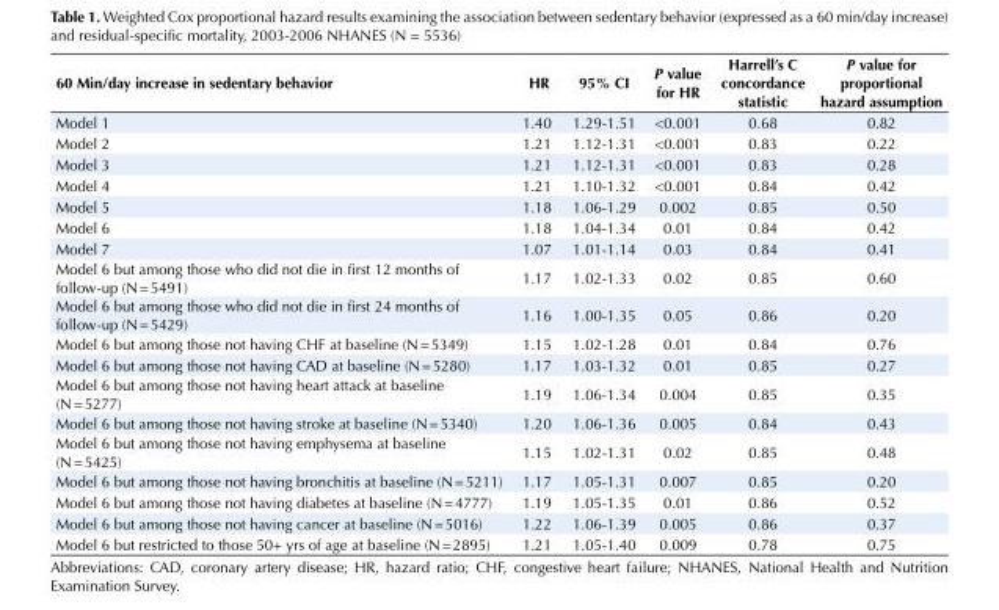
<table><tbody><tr><td>60 Min/day increase in sedentary behavior</td><td>HR</td><td>95% CI</td><td>P value for HR</td><td>Harrell’s C concordance statistic</td><td>P value for proportional hazard assumption</td></tr><tr><td>Model 1</td><td>1.40</td><td>1.29-1.51</td><td>&lt;0.001</td><td>0.68</td><td>0.82</td></tr><tr><td>Model 2</td><td>1.21</td><td>1.12-1.31</td><td>&lt;0.001</td><td>0.83</td><td>0.22</td></tr><tr><td>Model 3</td><td>1.21</td><td>1.12-1.31</td><td>&lt;0.001</td><td>0.83</td><td>0.28</td></tr><tr><td>Model 4</td><td>1.21</td><td>1.10-1.32</td><td>&lt;0.001</td><td>0.84</td><td>0.42</td></tr><tr><td>Model 5</td><td>1.18</td><td>1.06-1.29</td><td>0.002</td><td>0.85</td><td>0.50</td></tr><tr><td>Model 6</td><td>1.18</td><td>1.04-1.34</td><td>0.01</td><td>0.84</td><td>0.42</td></tr><tr><td>Model 7</td><td>1.07</td><td>1.01-1.14</td><td>0.03</td><td>0.84</td><td>0.41</td></tr><tr><td>Model 6 but among those who did not die in first 12 months of follow-up (N = 5491)</td><td>1.17</td><td>1.02-1.33</td><td>0.02</td><td>0.85</td><td>0.60</td></tr><tr><td>Model 6 but among those who did not die in first 24 months of follow-up (N = 5429)</td><td>1.16</td><td>1.00-1.35</td><td>0.05</td><td>0.86</td><td>0.20</td></tr><tr><td>Model 6 but among those not having CHF at baseline (N = 5349)</td><td>1.15</td><td>1.02-1.28</td><td>0.01</td><td>0.84</td><td>0.76</td></tr><tr><td>Model 6 but among those not having CAD at baseline (N = 5280)</td><td>1.17</td><td>1.03-1.32</td><td>0.01</td><td>0.85</td><td>0.27</td></tr><tr><td>Model 6 but among those not having heart attack at baseline (N = 5277)</td><td>1.19</td><td>1.06-1.34</td><td>0.004</td><td>0.85</td><td>0.35</td></tr><tr><td>Model 6 but among those not having stroke at baseline (N = 5340)</td><td>1.20</td><td>1.06-1.36</td><td>0.005</td><td>0.84</td><td>0.43</td></tr><tr><td>Model 6 but among those not having emphysema at baseline (N = 5425)</td><td>1.15</td><td>1.02-1.31</td><td>0.02</td><td>0.85</td><td>0.48</td></tr><tr><td>Model 6 but among those not having bronchitis at baseline (N = 5211)</td><td>1.17</td><td>1.05-1.31</td><td>0.007</td><td>0.85</td><td>0.20</td></tr><tr><td>Model 6 but among those not having diabetes at baseline (N = 4777)</td><td>1.19</td><td>1.05-1.35</td><td>0.01</td><td>0.86</td><td>0.52</td></tr><tr><td>Model 6 but among those not having cancer at baseline (N = 5016)</td><td>1.22</td><td>1.06-1.39</td><td>0.005</td><td>0.86</td><td>0.37</td></tr><tr><td>Model 6 but restricted to those 50+ yrs of age at baseline (N = 2895)</td><td>1.21</td><td>1.05-1.40</td><td>0.009</td><td>0.78</td><td>0.75</td></tr></tbody></table>